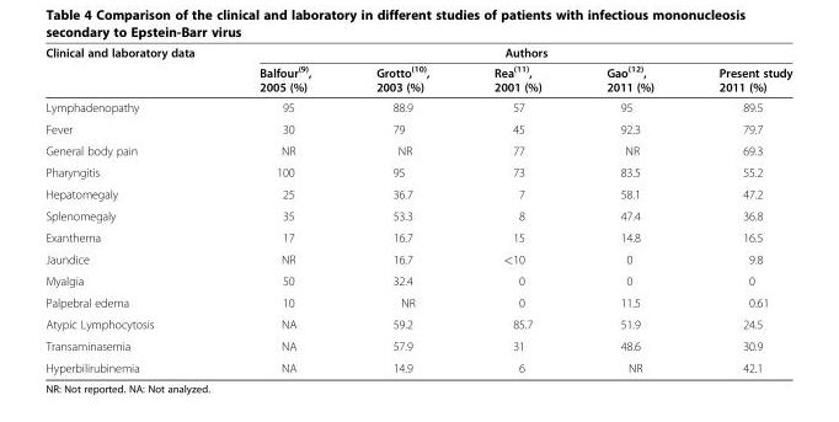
<table><thead><tr><td rowspan="2">Clinical and laboratory data</td><td colspan="5">Authors</td></tr><tr><td>Balfour<sup>(9)</sup>, 2005 (%)</td><td>Grotto<sup>(10)</sup>, 2003 (%)</td><td>Rea<sup>(11)</sup>, 2001 (%)</td><td>Gao<sup>(12)</sup>, 2011 (%)</td><td>Present study 2011 (%)</td></tr></thead><tbody><tr><td>Lymphadenopathy</td><td>95</td><td>88.9</td><td>57</td><td>95</td><td>89.5</td></tr><tr><td>Fever</td><td>30</td><td>79</td><td>45</td><td>92.3</td><td>79.7</td></tr><tr><td>General body pain</td><td>NR</td><td>NR</td><td>77</td><td>NR</td><td>69.3</td></tr><tr><td>Pharyngitis</td><td>100</td><td>95</td><td>73</td><td>83.5</td><td>55.2</td></tr><tr><td>Hepatomegaly</td><td>25</td><td>36.7</td><td>7</td><td>58.1</td><td>47.2</td></tr><tr><td>Splenomegaly</td><td>35</td><td>53.3</td><td>8</td><td>47.4</td><td>36.8</td></tr><tr><td>Exanthema</td><td>17</td><td>16.7</td><td>15</td><td>14.8</td><td>16.5</td></tr><tr><td>Jaundice</td><td>NR</td><td>16.7</td><td>&lt;10</td><td>0</td><td>9.8</td></tr><tr><td>Myalgia</td><td>50</td><td>32.4</td><td>0</td><td>0</td><td>0</td></tr><tr><td>Palpebral edema</td><td>10</td><td>NR</td><td>0</td><td>11.5</td><td>0.61</td></tr><tr><td>Atypic Lymphocytosis</td><td>NA</td><td>59.2</td><td>85.7</td><td>51.9</td><td>24.5</td></tr><tr><td>Transaminasemia</td><td>NA</td><td>57.9</td><td>31</td><td>48.6</td><td>30.9</td></tr><tr><td>Hyperbilirubinemia</td><td>NA</td><td>14.9</td><td>6</td><td>NR</td><td>42.1</td></tr></tbody></table>